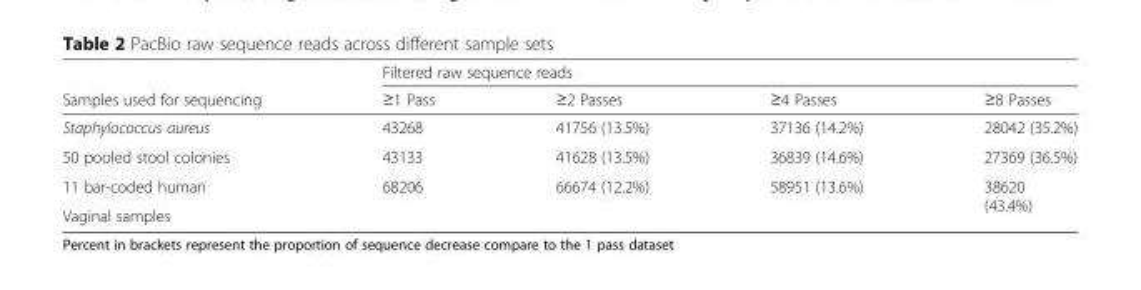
<table><thead><tr><td rowspan="2">Samples used for sequencing</td><td colspan="4">Filtered raw sequence reads</td></tr><tr><td>≥1 Pass</td><td>≥2 Passes</td><td>≥4 Passes</td><td>≥8 Passes</td></tr></thead><tbody><tr><td>Staphylococcus aureus</td><td>43268</td><td>41756 (13.5%)</td><td>37136 (14.2%)</td><td>28042 (35.2%)</td></tr><tr><td>50 pooled stool colonies</td><td>43133</td><td>41628 (13.5%)</td><td>36839 (14.6%)</td><td>27369 (36.5%)</td></tr><tr><td>11 bar-coded human</td><td rowspan="2">68206</td><td rowspan="2">66674 (12.2%)</td><td rowspan="2">58951 (13.6%)</td><td rowspan="2">38620 (43.4%)</td></tr><tr><td>Vaginal samples</td></tr></tbody></table>